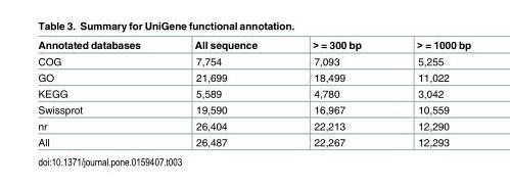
<table><thead><tr><td>Annotated databases</td><td>All sequence</td><td>&gt; = 300 bp</td><td>&gt; = 1000 bp</td></tr></thead><tbody><tr><td>COG</td><td>7,754</td><td>7,093</td><td>5,255</td></tr><tr><td>GO</td><td>21,699</td><td>18,499</td><td>11,022</td></tr><tr><td>KEGG</td><td>5,589</td><td>4,780</td><td>3,042</td></tr><tr><td>Swissprot</td><td>19,590</td><td>16,967</td><td>10,559</td></tr><tr><td>nr</td><td>26,404</td><td>22,213</td><td>12,290</td></tr><tr><td>All</td><td>26,487</td><td>22,267</td><td>12,293</td></tr></tbody></table>